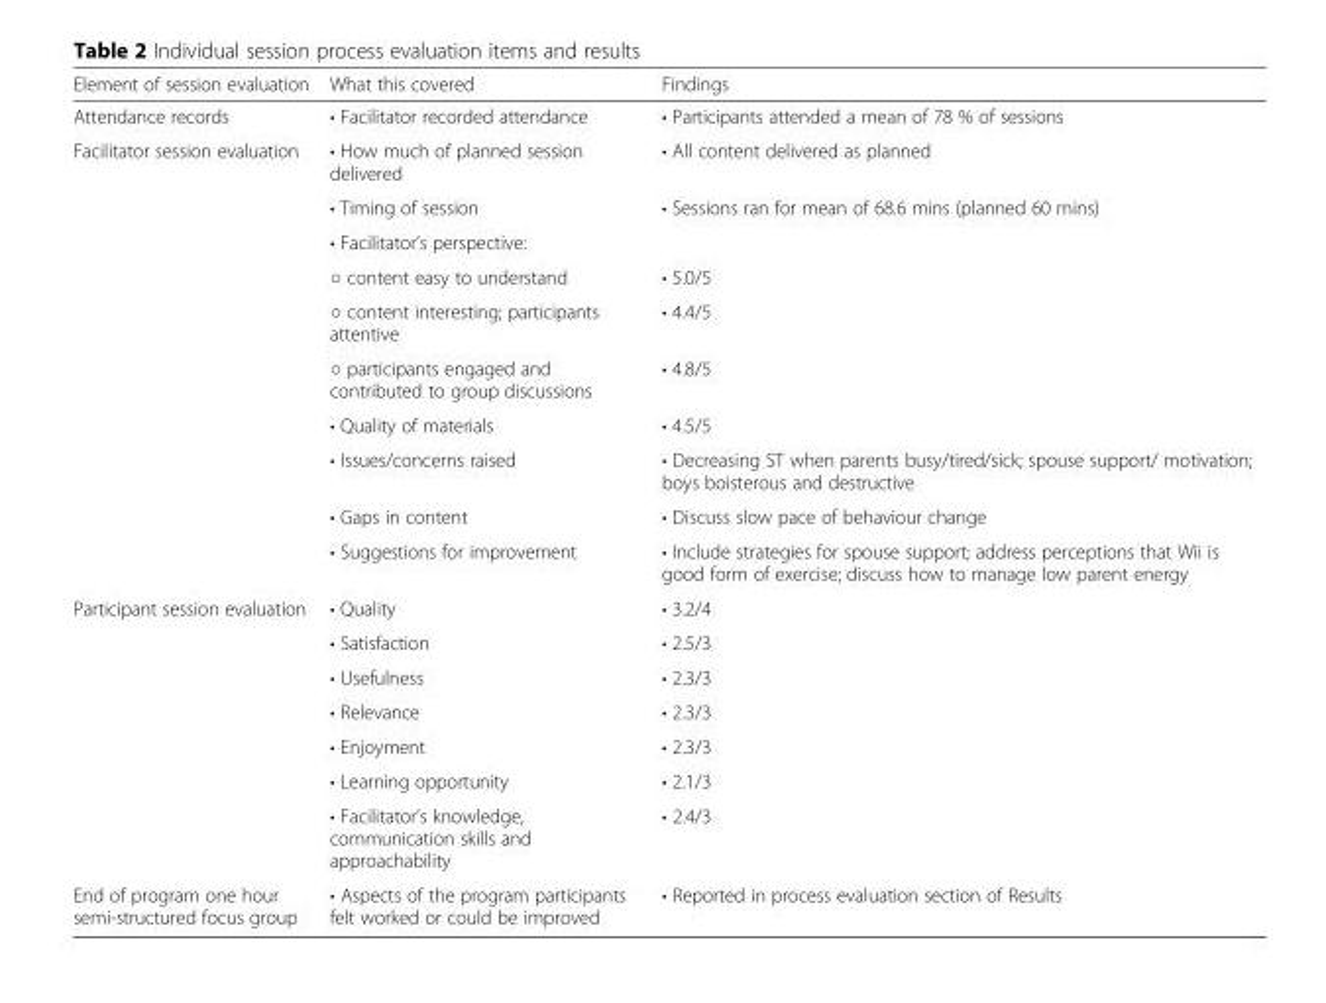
<table><thead><tr><td>Element of session evaluation</td><td>What this covered</td><td>Findings</td></tr></thead><tbody><tr><td>Attendance records</td><td>• Facilitator recorded attendance</td><td>• Participants attended a mean of 78 % of sessions</td></tr><tr><td rowspan="10">Facilitator session evaluation</td><td>• How much of planned session delivered</td><td>• All content delivered as planned</td></tr><tr><td>• Timing of session</td><td>• Sessions ran for mean of 68.6 mins (planned 60 mins)</td></tr><tr><td>• Facilitator’s perspective:</td><td></td></tr><tr><td>○ content easy to understand</td><td>• 5.0/5</td></tr><tr><td>○ content interesting; participants attentive</td><td>• 4.4/5</td></tr><tr><td>○ participants engaged and contributed to group discussions</td><td>• 4.8/5</td></tr><tr><td>• Quality of materials</td><td>• 4.5/5</td></tr><tr><td>• Issues/concerns raised</td><td>• Decreasing ST when parents busy/tired/sick; spouse support/ motivation; boys boisterous and destructive</td></tr><tr><td>• Gaps in content</td><td>• Discuss slow pace of behaviour change</td></tr><tr><td>• Suggestions for improvement</td><td>• Include strategies for spouse support; address perceptions that Wii is good form of exercise; discuss how to manage low parent energy</td></tr><tr><td rowspan="7">Participant session evaluation</td><td>• Quality</td><td>• 3.2/4</td></tr><tr><td>• Satisfaction</td><td>• 2.5/3</td></tr><tr><td>• Usefulness</td><td>• 2.3/3</td></tr><tr><td>• Relevance</td><td>• 2.3/3</td></tr><tr><td>• Enjoyment</td><td>• 2.3/3</td></tr><tr><td>• Learning opportunity</td><td>• 2.1/3</td></tr><tr><td>• Facilitator’s knowledge, communication skills and approachability</td><td>• 2.4/3</td></tr><tr><td>End of program one hour semi-structured focus group</td><td>• Aspects of the program participants felt worked or could be improved</td><td>• Reported in process evaluation section of Results</td></tr></tbody></table>